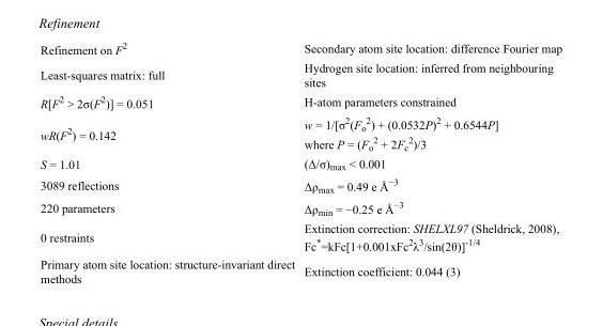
<table><tbody><tr><td>Refinement on F<sup>2</sup></td><td>Secondary atom site location: difference Fourier map</td></tr><tr><td>Least-squares matrix: full</td><td>Hydrogen site location: inferred from neighbouring sites</td></tr><tr><td>R[F<sup>2</sup> &gt; 2σ(F<sup>2</sup>)] = 0.051</td><td>H-atom parameters constrained</td></tr><tr><td>wR(F<sup>2</sup>) = 0.142</td><td>w = 1/[σ<sup>2</sup>(F<sub>o</sub> <sup>2</sup>) + (0.0532P)<sup>2</sup> + 0.6544P] where P = (F<sub>o</sub> <sup>2</sup> + 2F<sub>c</sub> <sup>2</sup>)/3</td></tr><tr><td>S = 1.01</td><td>(Δ/σ)<sub>max</sub> &lt; 0.001</td></tr><tr><td>3089 reflections</td><td>Δρ<sub>max</sub> = 0.49 e Å<sup>−3</sup></td></tr><tr><td>220 parameters</td><td>Δρ<sub>min</sub> = −0.25 e Å<sup>−3</sup></td></tr><tr><td>0 restraints</td><td>Extinction correction: SHELXL97 (Sheldrick, 2008), Fc*=kFc[1+0.001xFc<sup>2</sup>λ<sup>3</sup>/sin(2θ)]<sup>-1/4</sup></td></tr><tr><td>Primary atom site location: structure-invariant direct methods</td><td>Extinction coefficient: 0.044 (3)</td></tr></tbody></table>